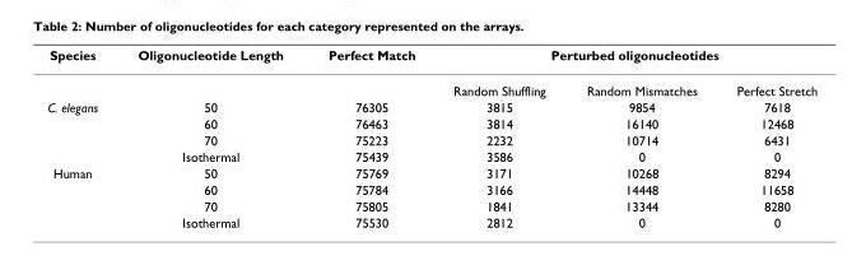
<table><thead><tr><td rowspan="2">Species</td><td rowspan="2">Oligonucleotide Length</td><td rowspan="2">Perfect Match</td><td colspan="3">Perturbed oligonucleotides</td></tr><tr><td>Random Shuffling</td><td>Random Mismatches</td><td>Perfect Stretch</td></tr></thead><tbody><tr><td rowspan="4">C. elegans</td><td>50</td><td>76305</td><td>3815</td><td>9854</td><td>7618</td></tr><tr><td>60</td><td>76463</td><td>3814</td><td>16140</td><td>12468</td></tr><tr><td>70</td><td>75223</td><td>2232</td><td>10714</td><td>6431</td></tr><tr><td>Isothermal</td><td>75439</td><td>3586</td><td>0</td><td>0</td></tr><tr><td rowspan="4">Human</td><td>50</td><td>75769</td><td>3171</td><td>10268</td><td>8294</td></tr><tr><td>60</td><td>75784</td><td>3166</td><td>14448</td><td>11658</td></tr><tr><td>70</td><td>75805</td><td>1841</td><td>13344</td><td>8280</td></tr><tr><td>Isothermal</td><td>75530</td><td>2812</td><td>0</td><td>0</td></tr></tbody></table>